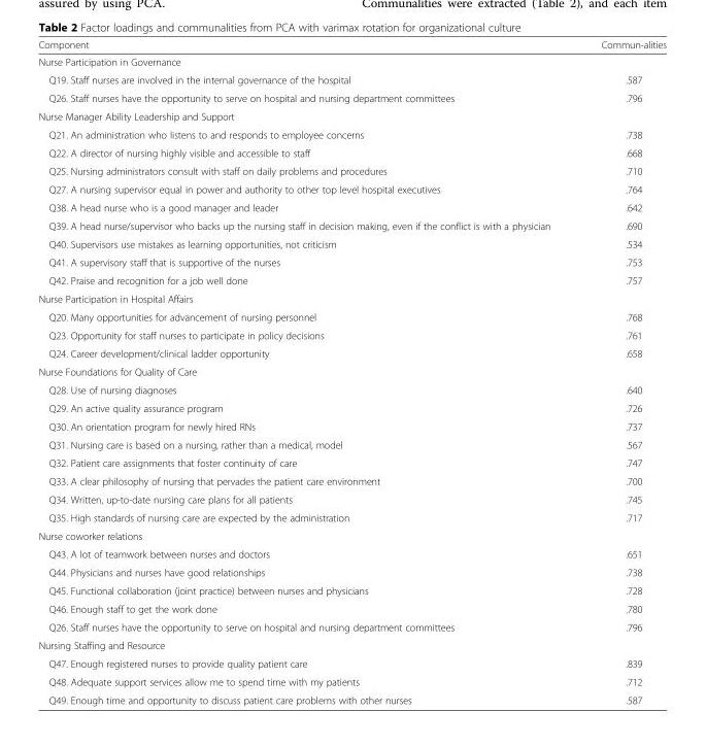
<table><thead><tr><td>Component</td><td>Commun-alities</td></tr></thead><tbody><tr><td colspan="2">Nurse Participation in Governance</td></tr><tr><td>Q19. Staff nurses are involved in the internal governance of the hospital</td><td>.587</td></tr><tr><td>Q26. Staff nurses have the opportunity to serve on hospital and nursing department committees</td><td>.796</td></tr><tr><td colspan="2">Nurse Manager Ability Leadership and Support</td></tr><tr><td>Q21. An administration who listens to and responds to employee concerns</td><td>.738</td></tr><tr><td>Q22. A director of nursing highly visible and accessible to staff</td><td>.668</td></tr><tr><td>Q25. Nursing administrators consult with staff on daily problems and procedures</td><td>.710</td></tr><tr><td>Q27. A nursing supervisor equal in power and authority to other top level hospital executives</td><td>.764</td></tr><tr><td>Q38. A head nurse who is a good manager and leader</td><td>.642</td></tr><tr><td>Q39. A head nurse/supervisor who backs up the nursing staff in decision making, even if the conflict is with a physician</td><td>.690</td></tr><tr><td>Q40. Supervisors use mistakes as learning opportunities, not criticism</td><td>.534</td></tr><tr><td>Q41. A supervisory staff that is supportive of the nurses</td><td>.753</td></tr><tr><td>Q42. Praise and recognition for a job well done</td><td>.757</td></tr><tr><td colspan="2">Nurse Participation in Hospital Affairs</td></tr><tr><td>Q20. Many opportunities for advancement of nursing personnel</td><td>.768</td></tr><tr><td>Q23. Opportunity for staff nurses to participate in policy decisions</td><td>.761</td></tr><tr><td>Q24. Career development/clinical ladder opportunity</td><td>.658</td></tr><tr><td colspan="2">Nurse Foundations for Quality of Care</td></tr><tr><td>Q28. Use of nursing diagnoses</td><td>.640</td></tr><tr><td>Q29. An active quality assurance program</td><td>.726</td></tr><tr><td>Q30. An orientation program for newly hired RNs</td><td>.737</td></tr><tr><td>Q31. Nursing care is based on a nursing, rather than a medical, model</td><td>.567</td></tr><tr><td>Q32. Patient care assignments that foster continuity of care</td><td>.747</td></tr><tr><td>Q33. A clear philosophy of nursing that pervades the patient care environment</td><td>.700</td></tr><tr><td>Q34. Written, up-to-date nursing care plans for all patients</td><td>.745</td></tr><tr><td>Q35. High standards of nursing care are expected by the administration</td><td>.717</td></tr><tr><td colspan="2">Nurse coworker relations</td></tr><tr><td>Q43. A lot of teamwork between nurses and doctors</td><td>.651</td></tr><tr><td>Q44. Physicians and nurses have good relationships</td><td>.738</td></tr><tr><td>Q45. Functional collaboration (joint practice) between nurses and physicians</td><td>.728</td></tr><tr><td>Q46. Enough staff to get the work done</td><td>.780</td></tr><tr><td>Q26. Staff nurses have the opportunity to serve on hospital and nursing department committees</td><td>.796</td></tr><tr><td colspan="2">Nursing Staffing and Resource</td></tr><tr><td>Q47. Enough registered nurses to provide quality patient care</td><td>.839</td></tr><tr><td>Q48. Adequate support services allow me to spend time with my patients</td><td>.712</td></tr><tr><td>Q49. Enough time and opportunity to discuss patient care problems with other nurses</td><td>.587</td></tr></tbody></table>